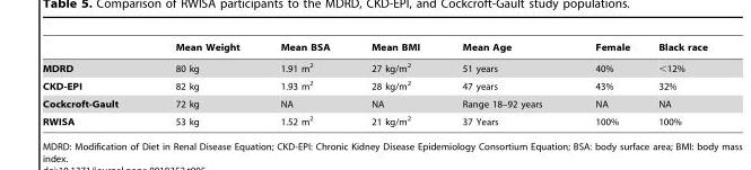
<table><thead><tr><td></td><td>Mean Weight</td><td>Mean BSA</td><td>Mean BMI</td><td>Mean Age</td><td>Female</td><td>Black race</td></tr></thead><tbody><tr><td>MDRD</td><td>80 kg</td><td>1.91 m<sup>2</sup></td><td>27 kg/m<sup>2</sup></td><td>51 years</td><td>40%</td><td>&lt;12%</td></tr><tr><td>CKD-EPI</td><td>82 kg</td><td>1.93 m<sup>2</sup></td><td>28 kg/m<sup>2</sup></td><td>47 years</td><td>43%</td><td>32%</td></tr><tr><td>Cockcroft-Gault</td><td>72 kg</td><td>NA</td><td>NA</td><td>Range 18–92 years</td><td>NA</td><td>NA</td></tr><tr><td>RWISA</td><td>53 kg</td><td>1.52 m<sup>2</sup></td><td>21 kg/m<sup>2</sup></td><td>37 Years</td><td>100%</td><td>100%</td></tr></tbody></table>